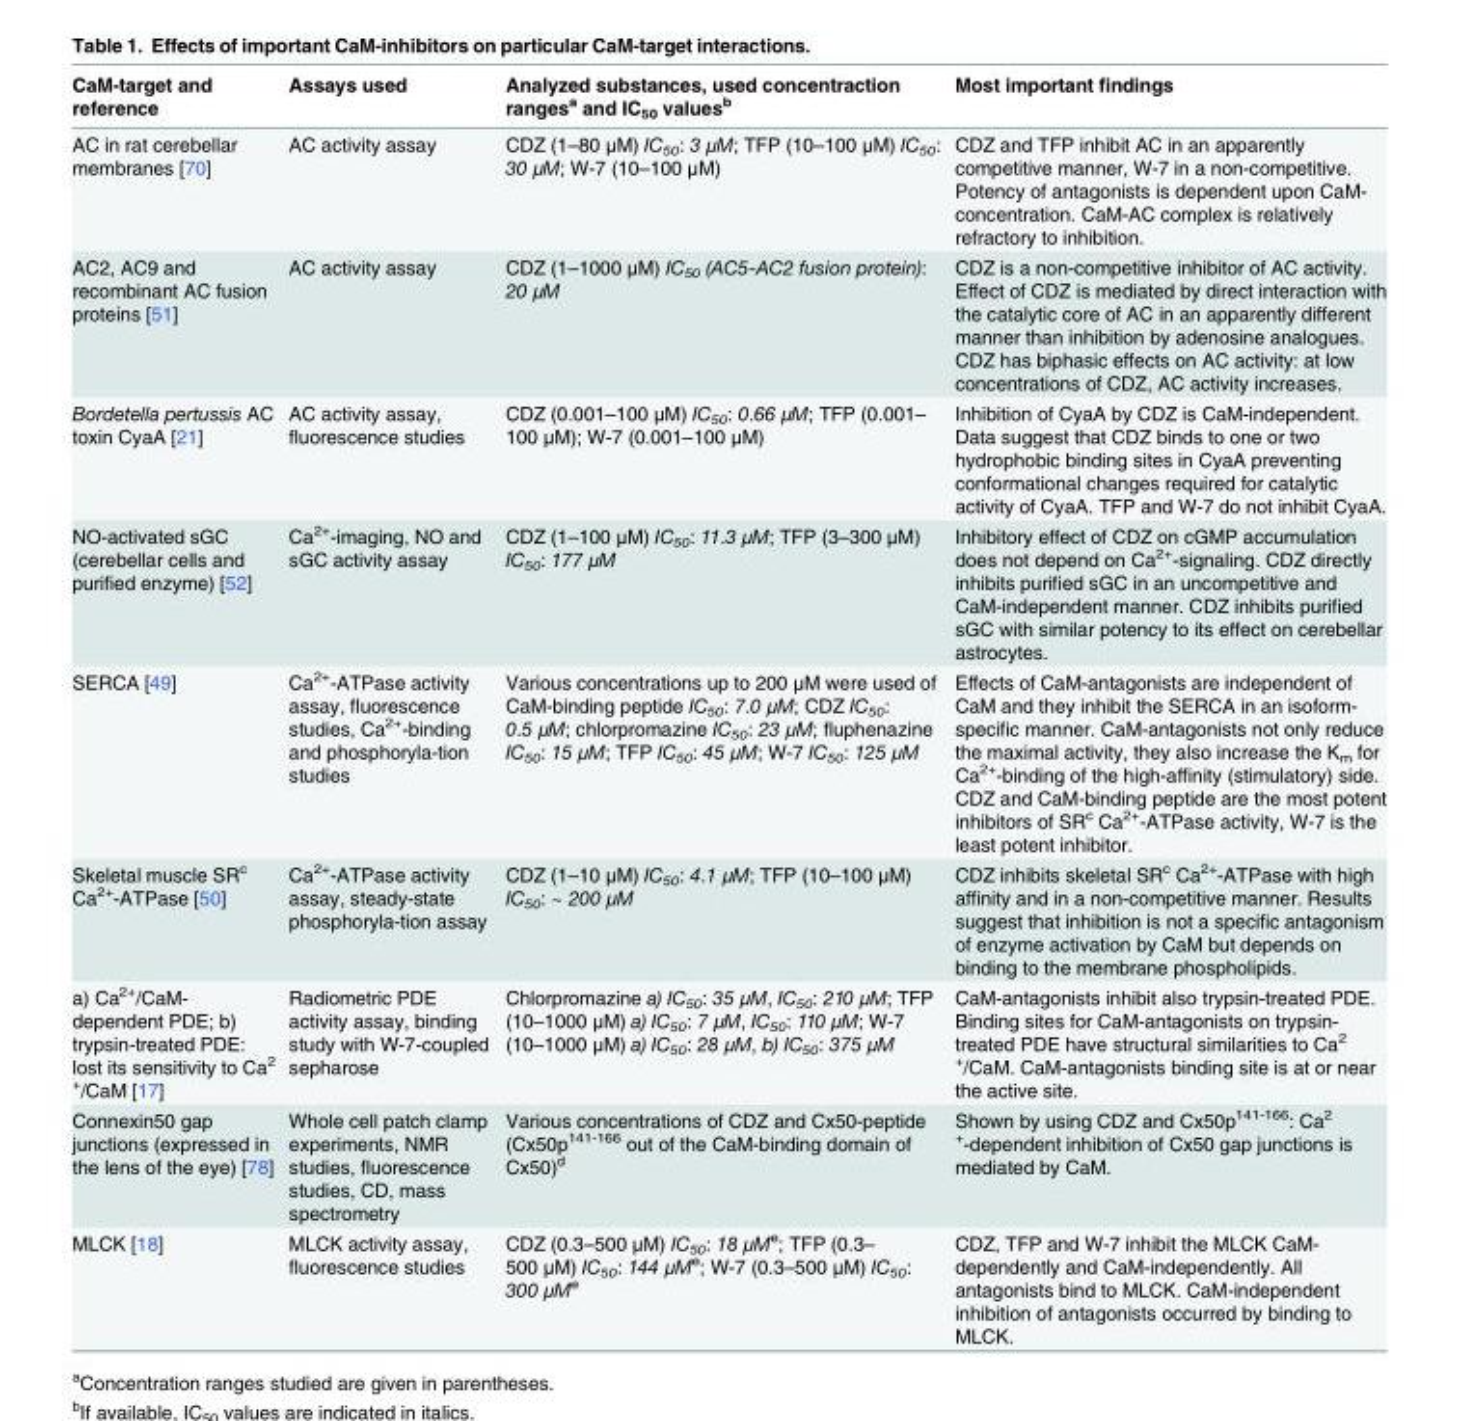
<table><thead><tr><td>CaM-target and reference</td><td>Assays used</td><td>Analyzed substances, used concentraction ranges<sup>a</sup> and IC<sub>50</sub> values<sup>b</sup></td><td>Most important findings</td></tr></thead><tbody><tr><td>AC in rat cerebellar membranes [70]</td><td>AC activity assay</td><td>CDZ (1–80 μM) IC<sub>50</sub>: 3 μM; TFP (10–100 μM) IC<sub>50</sub>: 30 μM; W-7 (10–100 μM)</td><td>CDZ and TFP inhibit AC in an apparently competitive manner, W-7 in a non-competitive. Potency of antagonists is dependent upon CaM- concentration. CaM-AC complex is relatively refractory to inhibition.</td></tr><tr><td>AC2, AC9 and recombinant AC fusion proteins [51]</td><td>AC activity assay</td><td>CDZ (1–1000 μM) IC<sub>50</sub> (AC5-AC2 fusion protein): 20 μM</td><td>CDZ is a non-competitive inhibitor of AC activity. Effect of CDZ is mediated by direct interaction with the catalytic core of AC in an apparently different manner than inhibition by adenosine analogues. CDZ has biphasic effects on AC activity: at low concentrations of CDZ, AC activity increases.</td></tr><tr><td>Bordetella pertussis AC toxin CyaA [21]</td><td>AC activity assay, fluorescence studies</td><td>CDZ (0.001–100 μM) IC<sub>50</sub>: 0.66 μM; TFP (0.001– 100 μM); W-7 (0.001–100 μM)</td><td>Inhibition of CyaA by CDZ is CaM-independent. Data suggest that CDZ binds to one or two hydrophobic binding sites in CyaA preventing conformational changes required for catalytic activity of CyaA. TFP and W-7 do not inhibit CyaA.</td></tr><tr><td>NO-activated sGC (cerebellar cells and purified enzyme) [52]</td><td>Ca<sup>2+</sup>-imaging, NO and sGC activity assay</td><td>CDZ (1–100 μM) IC<sub>50</sub>: 11.3 μM; TFP (3–300 μM) IC<sub>50</sub>: 177 μM</td><td>Inhibitory effect of CDZ on cGMP accumulation does not depend on Ca<sup>2+</sup>-signaling. CDZ directly inhibits purified sGC in an uncompetitive and CaM-independent manner. CDZ inhibits purified sGC with similar potency to its effect on cerebellar astrocytes.</td></tr><tr><td>SERCA [49]</td><td>Ca<sup>2+</sup>-ATPase activity assay, fluorescence studies, Ca<sup>2+</sup>-binding and phosphoryla-tion studies</td><td>Various concentrations up to 200 μM were used of CaM-binding peptide IC<sub>50</sub>: 7.0 μM; CDZ IC<sub>50</sub>: 0.5 μM; chlorpromazine IC<sub>50</sub>: 23 μM; fluphenazine IC<sub>50</sub>: 15 μM; TFP IC<sub>50</sub>: 45 μM; W-7 IC<sub>50</sub>: 125 μM</td><td>Effects of CaM-antagonists are independent of CaM and they inhibit the SERCA in an isoform- specific manner. CaM-antagonists not only reduce the maximal activity, they also increase the K<sub>m</sub> for Ca<sup>2+</sup>-binding of the high-affinity (stimulatory) side. CDZ and CaM-binding peptide are the most potent inhibitors of SR<sup>c</sup> Ca<sup>2+</sup>-ATPase activity, W-7 is the least potent inhibitor.</td></tr><tr><td>Skeletal muscle SR<sup>c</sup> Ca<sup>2+</sup>-ATPase [50]</td><td>Ca<sup>2+</sup>-ATPase activity assay, steady-state phosphoryla-tion assay</td><td>CDZ (1–10 μM) IC<sub>50</sub>: 4.1 μM; TFP (10–100 μM) IC<sub>50</sub>: ~ 200 μM</td><td>CDZ inhibits skeletal SR<sup>c</sup> Ca<sup>2+</sup>-ATPase with high affinity and in a non-competitive manner. Results suggest that inhibition is not a specific antagonism of enzyme activation by CaM but depends on binding to the membrane phospholipids.</td></tr><tr><td>a) Ca<sup>2+</sup>/CaM- dependent PDE; b) trypsin-treated PDE: lost its sensitivity to Ca<sup>2 +</sup>/CaM [17]</td><td>Radiometric PDE activity assay, binding study with W-7-coupled sepharose</td><td>Chlorpromazine a) IC<sub>50</sub>: 35 μM, IC<sub>50</sub>: 210 μM; TFP (10–1000 μM) a) IC<sub>50</sub>: 7 μM, IC<sub>50</sub>: 110 μM; W-7 (10–1000 μM) a) IC<sub>50</sub>: 28 μM, b) IC<sub>50</sub>: 375 μM</td><td>CaM-antagonists inhibit also trypsin-treated PDE. Binding sites for CaM-antagonists on trypsin- treated PDE have structural similarities to Ca<sup>2 +</sup>/CaM. CaM-antagonists binding site is at or near the active site.</td></tr><tr><td>Connexin50 gap junctions (expressed in the lens of the eye) [78]</td><td>Whole cell patch clamp experiments, NMR studies, fluorescence studies, CD, mass spectrometry</td><td>Various concentrations of CDZ and Cx50-peptide (Cx50p<sup>141-166</sup> out of the CaM-binding domain of Cx50)<sup>d</sup></td><td>Shown by using CDZ and Cx50p<sup>141-166</sup>: Ca<sup>2 +</sup>-dependent inhibition of Cx50 gap junctions is mediated by CaM.</td></tr><tr><td>MLCK [18]</td><td>MLCK activity assay, fluorescence studies</td><td>CDZ (0.3–500 μM) IC<sub>50</sub>: 18 μM<sup>e</sup>; TFP (0.3– 500 μM) IC<sub>50</sub>: 144 μM<sup>e</sup>; W-7 (0.3–500 μM) IC<sub>50</sub>: 300 μM<sup>e</sup></td><td>CDZ, TFP and W-7 inhibit the MLCK CaM- dependently and CaM-independently. All antagonists bind to MLCK. CaM-independent inhibition of antagonists occurred by binding to MLCK.</td></tr></tbody></table>